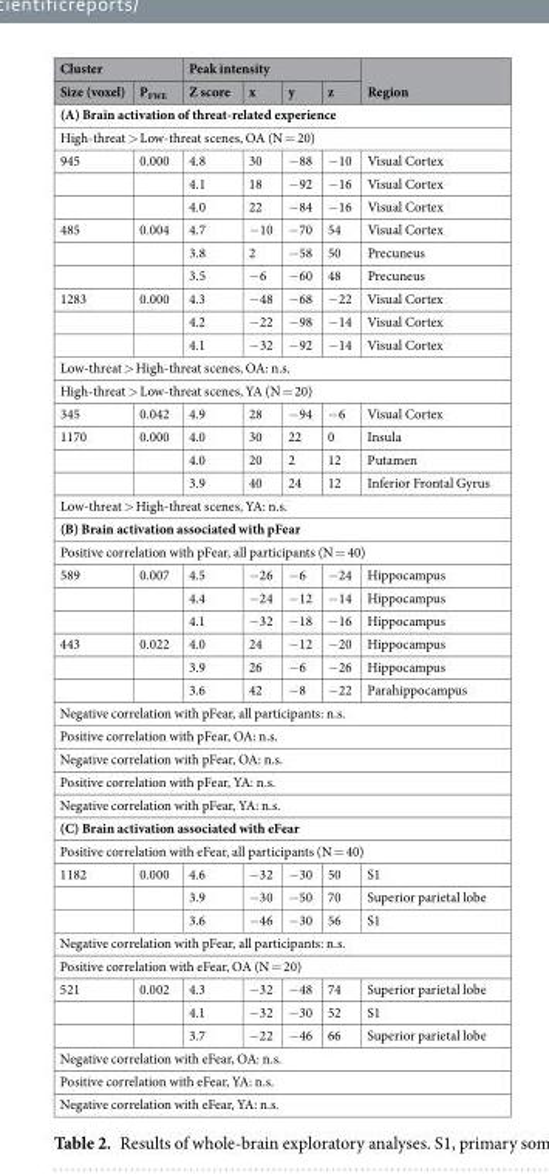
<table><thead><tr><td colspan="2">Cluster</td><td colspan="4">Peak intensity</td><td rowspan="2">Region</td></tr><tr><td>Size (voxel)</td><td>P<sub>FWE</sub></td><td>Z score</td><td>x</td><td>y</td><td>z</td></tr></thead><tbody><tr><td colspan="7">(A) Brain activation of threat-related experience</td></tr><tr><td colspan="7">High-threat &gt; Low-threat scenes, OA (N = 20)</td></tr><tr><td rowspan="3">945</td><td>0.000</td><td>4.8</td><td>30</td><td>−88</td><td>−10</td><td>Visual Cortex</td></tr><tr><td></td><td>4.1</td><td>18</td><td>−92</td><td>−16</td><td>Visual Cortex</td></tr><tr><td></td><td>4.0</td><td>22</td><td>−84</td><td>−16</td><td>Visual Cortex</td></tr><tr><td rowspan="3">485</td><td>0.004</td><td>4.7</td><td>−10</td><td>−70</td><td>54</td><td>Visual Cortex</td></tr><tr><td></td><td>3.8</td><td>2</td><td>−58</td><td>50</td><td>Precuneus</td></tr><tr><td></td><td>3.5</td><td>−6</td><td>−60</td><td>48</td><td>Precuneus</td></tr><tr><td rowspan="3">1283</td><td>0.000</td><td>4.3</td><td>−48</td><td>−68</td><td>−22</td><td>Visual Cortex</td></tr><tr><td></td><td>4.2</td><td>−22</td><td>−98</td><td>−14</td><td>Visual Cortex</td></tr><tr><td></td><td>4.1</td><td>−32</td><td>−92</td><td>−14</td><td>Visual Cortex</td></tr><tr><td colspan="7">Low-threat &gt; High-threat scenes, OA: n.s.</td></tr><tr><td colspan="7">High-threat &gt; Low-threat scenes, YA (N = 20)</td></tr><tr><td>345</td><td>0.042</td><td>4.9</td><td>28</td><td>−94</td><td>−6</td><td>Visual Cortex</td></tr><tr><td rowspan="3">1170</td><td>0.000</td><td>4.0</td><td>30</td><td>22</td><td>0</td><td>Insula</td></tr><tr><td></td><td>4.0</td><td>20</td><td>2</td><td>12</td><td>Putamen</td></tr><tr><td></td><td>3.9</td><td>40</td><td>24</td><td>12</td><td>Inferior Frontal Gyrus</td></tr><tr><td colspan="7">Low-threat &gt; High-threat scenes, YA: n.s.</td></tr><tr><td colspan="7">(B) Brain activation associated with pFear</td></tr><tr><td colspan="7">Positive correlation with pFear, all participants (N = 40)</td></tr><tr><td rowspan="3">589</td><td>0.007</td><td>4.5</td><td>−26</td><td>−6</td><td>−24</td><td>Hippocampus</td></tr><tr><td></td><td>4.4</td><td>−24</td><td>−12</td><td>−14</td><td>Hippocampus</td></tr><tr><td></td><td>4.1</td><td>−32</td><td>−18</td><td>−16</td><td>Hippocampus</td></tr><tr><td rowspan="3">443</td><td>0.022</td><td>4.0</td><td>24</td><td>−12</td><td>−20</td><td>Hippocampus</td></tr><tr><td></td><td>3.9</td><td>26</td><td>−6</td><td>−26</td><td>Hippocampus</td></tr><tr><td></td><td>3.6</td><td>42</td><td>−8</td><td>−22</td><td>Parahippocampus</td></tr><tr><td colspan="7">Negative correlation with pFear, all participants: n.s.</td></tr><tr><td colspan="7">Positive correlation with pFear, OA: n.s.</td></tr><tr><td colspan="7">Negative correlation with pFear, OA: n.s.</td></tr><tr><td colspan="7">Positive correlation with pFear, YA: n.s.</td></tr><tr><td colspan="7">Negative correlation with pFear, YA: n.s.</td></tr><tr><td colspan="7">(C) Brain activation associated with eFear</td></tr><tr><td colspan="7">Positive correlation with eFear, all participants (N = 40)</td></tr><tr><td rowspan="3">1182</td><td>0.000</td><td>4.6</td><td>−32</td><td>−30</td><td>50</td><td>S1</td></tr><tr><td></td><td>3.9</td><td>−30</td><td>−50</td><td>70</td><td>Superior parietal lobe</td></tr><tr><td></td><td>3.6</td><td>−46</td><td>−30</td><td>56</td><td>S1</td></tr><tr><td colspan="7">Negative correlation with pFear, all participants: n.s.</td></tr><tr><td colspan="7">Positive correlation with eFear, OA (N = 20)</td></tr><tr><td rowspan="3">521</td><td>0.002</td><td>4.3</td><td>−32</td><td>−48</td><td>74</td><td>Superior parietal lobe</td></tr><tr><td></td><td>4.1</td><td>−32</td><td>−30</td><td>52</td><td>S1</td></tr><tr><td></td><td>3.7</td><td>−22</td><td>−46</td><td>66</td><td>Superior parietal lobe</td></tr><tr><td colspan="7">Negative correlation with eFear, OA: n.s.</td></tr><tr><td colspan="7">Positive correlation with eFear, YA: n.s.</td></tr><tr><td colspan="7">Negative correlation with eFear, YA: n.s.</td></tr></tbody></table>